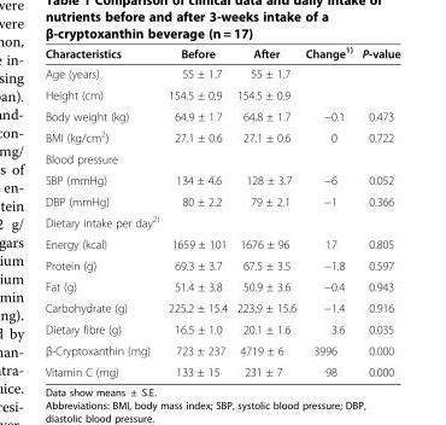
<table><thead><tr><td>Characteristics</td><td>Before</td><td>After</td><td>Change<sup>1)</sup></td><td>P-value</td></tr></thead><tbody><tr><td>Age (years)</td><td>55 ± 1.7</td><td>55 ± 1.7</td><td></td><td></td></tr><tr><td>Height (cm)</td><td>154.5 ± 0.9</td><td>154.5 ± 0.9</td><td></td><td></td></tr><tr><td>Body weight (kg)</td><td>64.9 ± 1.7</td><td>64.8 ± 1.7</td><td>−0.1</td><td>0.473</td></tr><tr><td>BMI (kg/cm<sup>2</sup>)</td><td>27.1 ± 0.6</td><td>27.1 ± 0.6</td><td>0</td><td>0.722</td></tr><tr><td colspan="5">Blood pressure</td></tr><tr><td>SBP (mmHg)</td><td>134 ± 4.6</td><td>128 ± 3.7</td><td>−6</td><td>0.052</td></tr><tr><td>DBP (mmHg)</td><td>80 ± 2.2</td><td>79 ± 2.1</td><td>−1</td><td>0.366</td></tr><tr><td colspan="5">Dietary intake per day<sup>2)</sup></td></tr><tr><td>Energy (kcal)</td><td>1659 ± 101</td><td>1676 ± 96</td><td>17</td><td>0.805</td></tr><tr><td>Protein (g)</td><td>69.3 ± 3.7</td><td>67.5 ± 3.5</td><td>−1.8</td><td>0.597</td></tr><tr><td>Fat (g)</td><td>51.4 ± 3.8</td><td>50.9 ± 3.6</td><td>−0.4</td><td>0.943</td></tr><tr><td>Carbohydrate (g)</td><td>225.2 ± 15.4</td><td>223.9 ± 15.6</td><td>−1.4</td><td>0.916</td></tr><tr><td>Dietary fibre (g)</td><td>16.5 ± 1.0</td><td>20.1 ± 1.6</td><td>3.6</td><td>0.035</td></tr><tr><td>β-Cryptoxanthin (mg)</td><td>723 ± 237</td><td>4719 ± 6</td><td>3996</td><td>0.000</td></tr><tr><td>Vitamin C (mg)</td><td>133 ± 15</td><td>231 ± 7</td><td>98</td><td>0.000</td></tr></tbody></table>